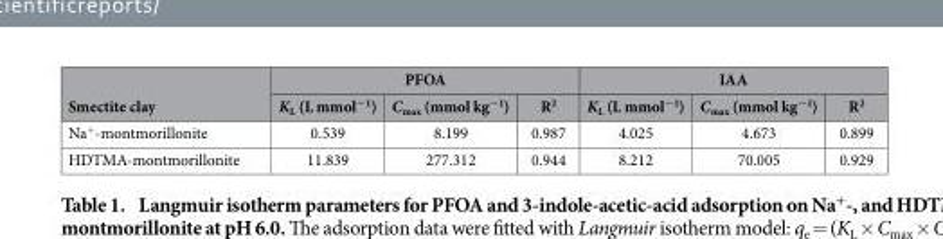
<table><thead><tr><td rowspan="2">Smectite clay</td><td colspan="3">PFOA</td><td colspan="3">IAA</td></tr><tr><td>K<sub>L</sub> (L mmol<sup>−1</sup>)</td><td>C<sub>max</sub> (mmol kg<sup>−1</sup>)</td><td>R<sup>2</sup></td><td>K<sub>L</sub> (L mmol<sup>−1</sup>)</td><td>C<sub>max</sub> (mmol kg<sup>−1</sup>)</td><td>R<sup>2</sup></td></tr></thead><tbody><tr><td>Na<sup>+</sup>-montmorillonite</td><td>0.539</td><td>8.199</td><td>0.987</td><td>4.025</td><td>4.673</td><td>0.899</td></tr><tr><td>HDTMA-montmorillonite</td><td>11.839</td><td>277.312</td><td>0.944</td><td>8.212</td><td>70.005</td><td>0.929</td></tr></tbody></table>